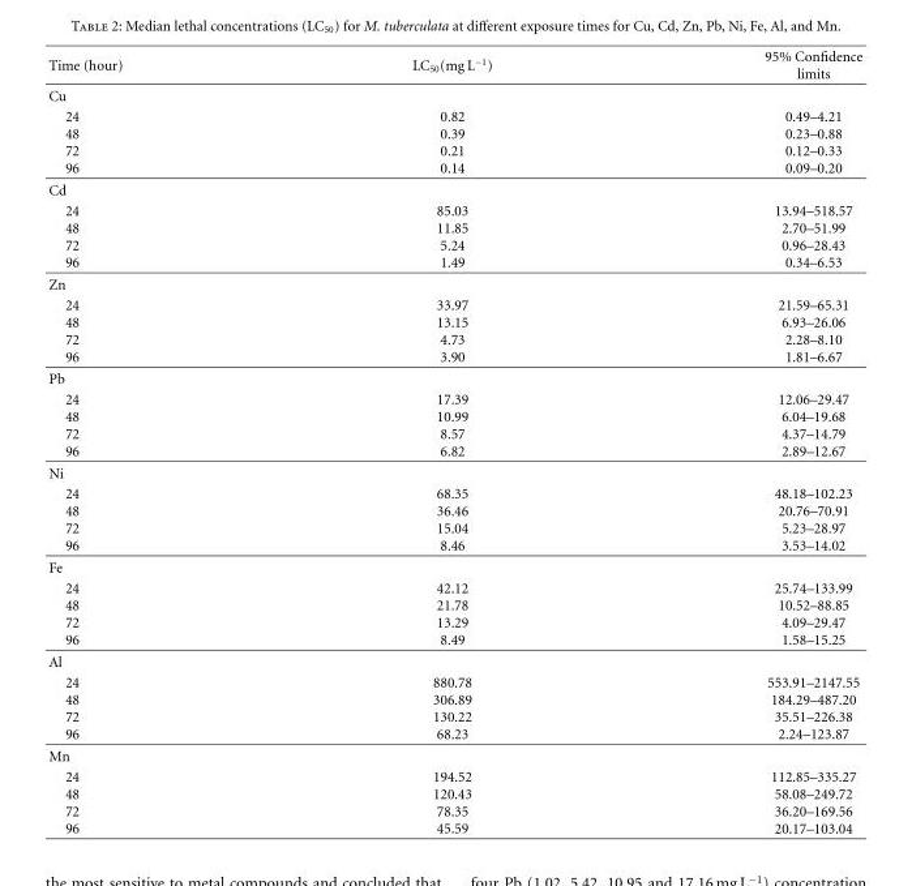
<table><thead><tr><td>Time (hour)</td><td>LC<sub>50</sub>(mg L<sup>−1</sup>)</td><td>95% Confidence limits</td></tr></thead><tbody><tr><td colspan="3">Cu</td></tr><tr><td>24 48 72 96</td><td>0.82 0.39 0.21 0.14</td><td>0.49–4.21 0.23–0.88 0.12–0.33 0.09–0.20</td></tr><tr><td colspan="3">Cd</td></tr><tr><td>24 48 72 96</td><td>85.03 11.85 5.24 1.49</td><td>13.94–518.57 2.70–51.99 0.96–28.43 0.34–6.53</td></tr><tr><td colspan="3">Zn</td></tr><tr><td>24 48 72 96</td><td>33.97 13.15 4.73 3.90</td><td>21.59–65.31 6.93–26.06 2.28–8.10 1.81–6.67</td></tr><tr><td colspan="3">Pb</td></tr><tr><td>24 48 72 96</td><td>17.39 10.99 8.57 6.82</td><td>12.06–29.47 6.04–19.68 4.37–14.79 2.89–12.67</td></tr><tr><td colspan="3">Ni</td></tr><tr><td>24 48 72 96</td><td>68.35 36.46 15.04 8.46</td><td>48.18–102.23 20.76–70.91 5.23–28.97 3.53–14.02</td></tr><tr><td colspan="3">Fe</td></tr><tr><td>24 48 72 96</td><td>42.12 21.78 13.29 8.49</td><td>25.74–133.99 10.52–88.85 4.09–29.47 1.58–15.25</td></tr><tr><td colspan="3">Al</td></tr><tr><td>24 48 72 96</td><td>880.78 306.89 130.22 68.23</td><td>553.91–2147.55 184.29–487.20 35.51–226.38 2.24–123.87</td></tr><tr><td colspan="3">Mn</td></tr><tr><td>24 48 72 96</td><td>194.52 120.43 78.35 45.59</td><td>112.85–335.27 58.08–249.72 36.20–169.56 20.17–103.04</td></tr></tbody></table>